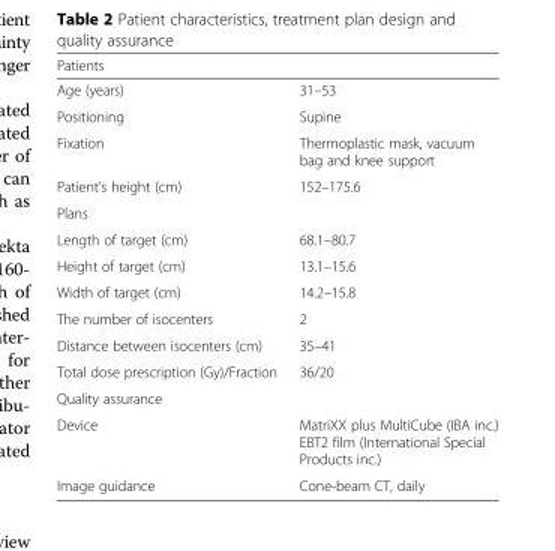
<table><thead><tr><td>Patients</td><td></td></tr></thead><tbody><tr><td>Age (years)</td><td>31–53</td></tr><tr><td>Positioning</td><td>Supine</td></tr><tr><td>Fixation</td><td>Thermoplastic mask, vacuum bag and knee support</td></tr><tr><td>Patient’s height (cm)</td><td>152–175.6</td></tr><tr><td colspan="2">Plans</td></tr><tr><td>Length of target (cm)</td><td>68.1–80.7</td></tr><tr><td>Height of target (cm)</td><td>13.1–15.6</td></tr><tr><td>Width of target (cm)</td><td>14.2–15.8</td></tr><tr><td>The number of isocenters</td><td>2</td></tr><tr><td>Distance between isocenters (cm)</td><td>35–41</td></tr><tr><td>Total dose prescription (Gy)/Fraction</td><td>36/20</td></tr><tr><td colspan="2">Quality assurance</td></tr><tr><td>Device</td><td>MatriXX plus MultiCube (IBA inc.) EBT2 film (International Special Products inc.)</td></tr><tr><td>Image guidance</td><td>Cone-beam CT, daily</td></tr></tbody></table>